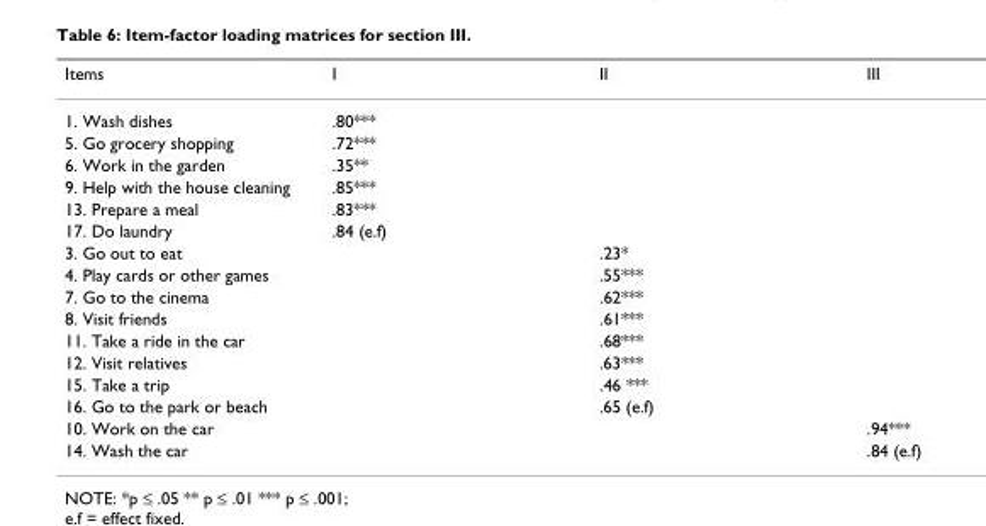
<table><thead><tr><td>Items</td><td>I</td><td>II</td><td>III</td></tr></thead><tbody><tr><td>1. Wash dishes</td><td>.80***</td><td></td><td></td></tr><tr><td>5. Go grocery shopping</td><td>.72***</td><td></td><td></td></tr><tr><td>6. Work in the garden</td><td>.35**</td><td></td><td></td></tr><tr><td>9. Help with the house cleaning</td><td>.85***</td><td></td><td></td></tr><tr><td>13. Prepare a meal</td><td>.83***</td><td></td><td></td></tr><tr><td>17. Do laundry</td><td>.84 (e.f)</td><td></td><td></td></tr><tr><td>3. Go out to eat</td><td></td><td>.23*</td><td></td></tr><tr><td>4. Play cards or other games</td><td></td><td>.55***</td><td></td></tr><tr><td>7. Go to the cinema</td><td></td><td>.62***</td><td></td></tr><tr><td>8. Visit friends</td><td></td><td>.61***</td><td></td></tr><tr><td>11. Take a ride in the car</td><td></td><td>.68***</td><td></td></tr><tr><td>12. Visit relatives</td><td></td><td>.63***</td><td></td></tr><tr><td>15. Take a trip</td><td></td><td>.46 ***</td><td></td></tr><tr><td>16. Go to the park or beach</td><td></td><td>.65 (e.f)</td><td></td></tr><tr><td>10. Work on the car</td><td></td><td></td><td>.94***</td></tr><tr><td>14. Wash the car</td><td></td><td></td><td>.84 (e.f)</td></tr></tbody></table>